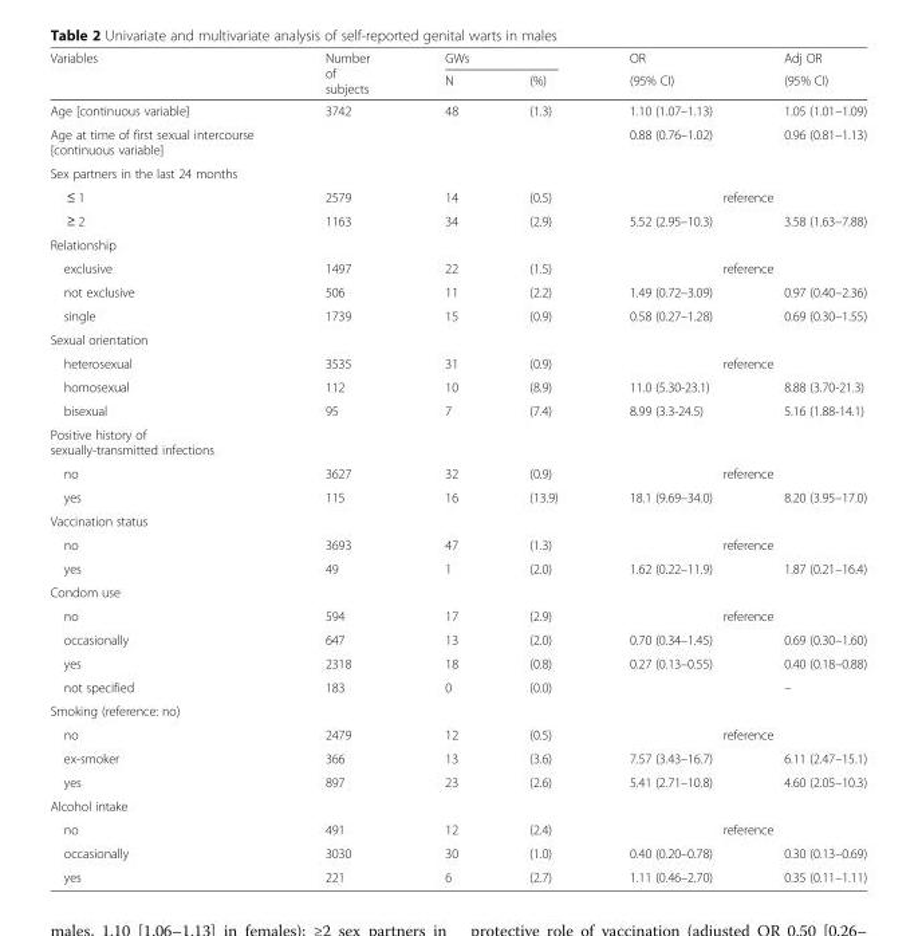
<table><thead><tr><td rowspan="2">Variables</td><td rowspan="2">Number of subjects</td><td colspan="2">GWs</td><td rowspan="2">OR (95% CI)</td><td rowspan="2">Adj OR (95% CI)</td></tr><tr><td>N</td><td>(%)</td></tr></thead><tbody><tr><td>Age [continuous variable]</td><td rowspan="2">3742</td><td rowspan="2">48</td><td rowspan="2">(1.3)</td><td>1.10 (1.07–1.13)</td><td>1.05 (1.01–1.09)</td></tr><tr><td>Age at time of first sexual intercourse [continuous variable]</td><td>0.88 (0.76–1.02)</td><td>0.96 (0.81–1.13)</td></tr><tr><td colspan="6">Sex partners in the last 24 months</td></tr><tr><td>≤ 1</td><td>2579</td><td>14</td><td>(0.5)</td><td colspan="2">reference</td></tr><tr><td>≥ 2</td><td>1163</td><td>34</td><td>(2.9)</td><td>5.52 (2.95–10.3)</td><td>3.58 (1.63–7.88)</td></tr><tr><td colspan="6">Relationship</td></tr><tr><td>exclusive</td><td>1497</td><td>22</td><td>(1.5)</td><td colspan="2">reference</td></tr><tr><td>not exclusive</td><td>506</td><td>11</td><td>(2.2)</td><td>1.49 (0.72–3.09)</td><td>0.97 (0.40–2.36)</td></tr><tr><td>single</td><td>1739</td><td>15</td><td>(0.9)</td><td>0.58 (0.27–1.28)</td><td>0.69 (0.30–1.55)</td></tr><tr><td colspan="6">Sexual orientation</td></tr><tr><td>heterosexual</td><td>3535</td><td>31</td><td>(0.9)</td><td colspan="2">reference</td></tr><tr><td>homosexual</td><td>112</td><td>10</td><td>(8.9)</td><td>11.0 (5.30-23.1)</td><td>8.88 (3.70-21.3)</td></tr><tr><td>bisexual</td><td>95</td><td>7</td><td>(7.4)</td><td>8.99 (3.3-24.5)</td><td>5.16 (1.88-14.1)</td></tr><tr><td colspan="6">Positive history of sexually-transmitted infections</td></tr><tr><td>no</td><td>3627</td><td>32</td><td>(0.9)</td><td colspan="2">reference</td></tr><tr><td>yes</td><td>115</td><td>16</td><td>(13.9)</td><td>18.1 (9.69–34.0)</td><td>8.20 (3.95–17.0)</td></tr><tr><td colspan="6">Vaccination status</td></tr><tr><td>no</td><td>3693</td><td>47</td><td>(1.3)</td><td colspan="2">reference</td></tr><tr><td>yes</td><td>49</td><td>1</td><td>(2.0)</td><td>1.62 (0.22–11.9)</td><td>1.87 (0.21–16.4)</td></tr><tr><td colspan="6">Condom use</td></tr><tr><td>no</td><td>594</td><td>17</td><td>(2.9)</td><td colspan="2">reference</td></tr><tr><td>occasionally</td><td>647</td><td>13</td><td>(2.0)</td><td>0.70 (0.34–1.45)</td><td>0.69 (0.30–1.60)</td></tr><tr><td>yes</td><td>2318</td><td>18</td><td>(0.8)</td><td>0.27 (0.13–0.55)</td><td>0.40 (0.18–0.88)</td></tr><tr><td>not specified</td><td>183</td><td>0</td><td>(0.0)</td><td></td><td>–</td></tr><tr><td colspan="6">Smoking (reference: no)</td></tr><tr><td>no</td><td>2479</td><td>12</td><td>(0.5)</td><td colspan="2">reference</td></tr><tr><td>ex-smoker</td><td>366</td><td>13</td><td>(3.6)</td><td>7.57 (3.43–16.7)</td><td>6.11 (2.47–15.1)</td></tr><tr><td>yes</td><td>897</td><td>23</td><td>(2.6)</td><td>5.41 (2.71–10.8)</td><td>4.60 (2.05–10.3)</td></tr><tr><td colspan="6">Alcohol intake</td></tr><tr><td>no</td><td>491</td><td>12</td><td>(2.4)</td><td colspan="2">reference</td></tr><tr><td>occasionally</td><td>3030</td><td>30</td><td>(1.0)</td><td>0.40 (0.20–0.78)</td><td>0.30 (0.13–0.69)</td></tr><tr><td>yes</td><td>221</td><td>6</td><td>(2.7)</td><td>1.11 (0.46–2.70)</td><td>0.35 (0.11–1.11)</td></tr></tbody></table>